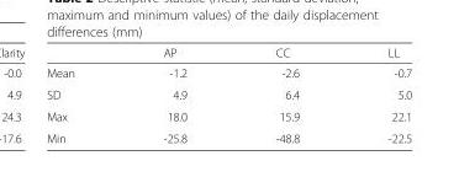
<table><thead><tr><td></td><td>AP</td><td>CC</td><td>LL</td></tr></thead><tbody><tr><td>Mean</td><td>-1.2</td><td>-2.6</td><td>-0.7</td></tr><tr><td>SD</td><td>4.9</td><td>6.4</td><td>5.0</td></tr><tr><td>Max</td><td>18.0</td><td>15.9</td><td>22.1</td></tr><tr><td>Min</td><td>-25.8</td><td>-48.8</td><td>-22.5</td></tr></tbody></table>